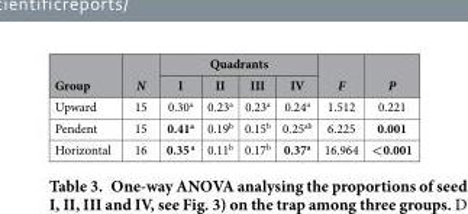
<table><thead><tr><td rowspan="2">Group</td><td rowspan="2">N</td><td colspan="4">Quadrants</td><td rowspan="2">F</td><td rowspan="2">P</td></tr><tr><td>I</td><td>II</td><td>III</td><td>IV</td></tr></thead><tbody><tr><td>Upward</td><td>15</td><td>0.30<sup>a</sup></td><td>0.23<sup>a</sup></td><td>0.23<sup>a</sup></td><td>0.24<sup>a</sup></td><td>1.512</td><td>0.221</td></tr><tr><td>Pendent</td><td>15</td><td>0.41<sup>a</sup></td><td>0.19<sup>b</sup></td><td>0.15<sup>b</sup></td><td>0.25<sup>ab</sup></td><td>6.225</td><td>0.001</td></tr><tr><td>Horizontal</td><td>16</td><td>0.35 <sup>a</sup></td><td>0.11<sup>b</sup></td><td>0.17<sup>b</sup></td><td>0.37<sup>a</sup></td><td>16.964</td><td>&lt;0.001</td></tr></tbody></table>